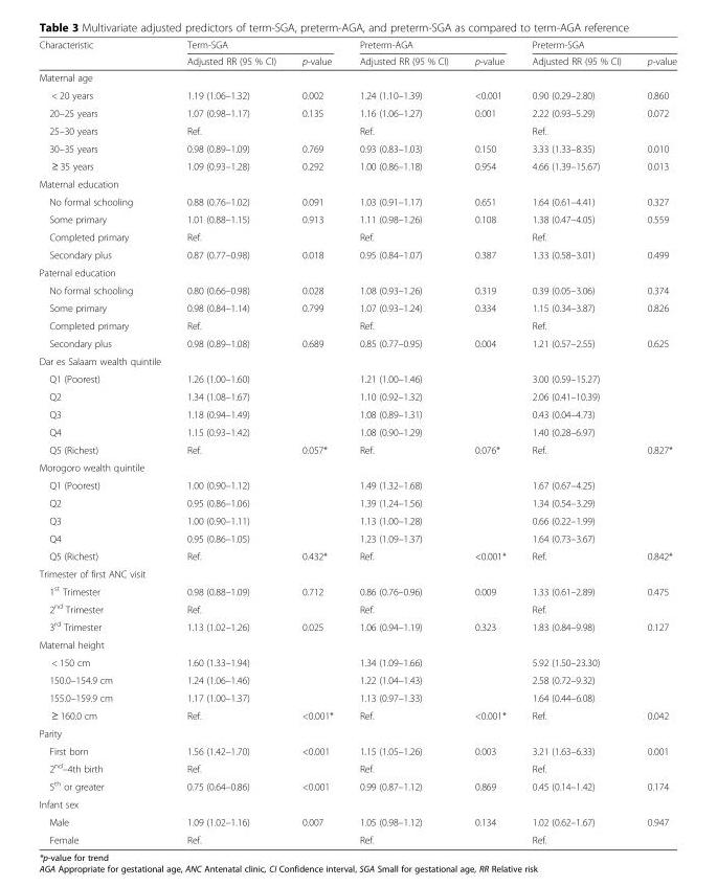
<table><thead><tr><td rowspan="2">Characteristic</td><td colspan="2">Term-SGA</td><td colspan="2">Preterm-AGA</td><td colspan="2">Preterm-SGA</td></tr><tr><td>Adjusted RR (95 % CI)</td><td>p-value</td><td>Adjusted RR (95 % CI)</td><td>p-value</td><td>Adjusted RR (95 % CI)</td><td>p-value</td></tr></thead><tbody><tr><td colspan="7">Maternal age</td></tr><tr><td>&lt; 20 years</td><td>1.19 (1.06–1.32)</td><td>0.002</td><td>1.24 (1.10–1.39)</td><td>&lt;0.001</td><td>0.90 (0.29–2.80)</td><td>0.860</td></tr><tr><td>20–25 years</td><td>1.07 (0.98–1.17)</td><td>0.135</td><td>1.16 (1.06–1.27)</td><td>0.001</td><td>2.22 (0.93–5.29)</td><td>0.072</td></tr><tr><td>25–30 years</td><td>Ref.</td><td></td><td>Ref.</td><td></td><td>Ref.</td><td></td></tr><tr><td>30–35 years</td><td>0.98 (0.89–1.09)</td><td>0.769</td><td>0.93 (0.83–1.03)</td><td>0.150</td><td>3.33 (1.33–8.35)</td><td>0.010</td></tr><tr><td>≥ 35 years</td><td>1.09 (0.93–1.28)</td><td>0.292</td><td>1.00 (0.86–1.18)</td><td>0.954</td><td>4.66 (1.39–15.67)</td><td>0.013</td></tr><tr><td colspan="7">Maternal education</td></tr><tr><td>No formal schooling</td><td>0.88 (0.76–1.02)</td><td>0.091</td><td>1.03 (0.91–1.17)</td><td>0.651</td><td>1.64 (0.61–4.41)</td><td>0.327</td></tr><tr><td>Some primary</td><td>1.01 (0.88–1.15)</td><td>0.913</td><td>1.11 (0.98–1.26)</td><td>0.108</td><td>1.38 (0.47–4.05)</td><td>0.559</td></tr><tr><td>Completed primary</td><td>Ref.</td><td></td><td>Ref.</td><td></td><td>Ref.</td><td></td></tr><tr><td>Secondary plus</td><td>0.87 (0.77–0.98)</td><td>0.018</td><td>0.95 (0.84–1.07)</td><td>0.387</td><td>1.33 (0.58–3.01)</td><td>0.499</td></tr><tr><td colspan="7">Paternal education</td></tr><tr><td>No formal schooling</td><td>0.80 (0.66–0.98)</td><td>0.028</td><td>1.08 (0.93–1.26)</td><td>0.319</td><td>0.39 (0.05–3.06)</td><td>0.374</td></tr><tr><td>Some primary</td><td>0.98 (0.84–1.14)</td><td>0.799</td><td>1.07 (0.93–1.24)</td><td>0.334</td><td>1.15 (0.34–3.87)</td><td>0.826</td></tr><tr><td>Completed primary</td><td>Ref.</td><td></td><td>Ref.</td><td></td><td>Ref.</td><td></td></tr><tr><td>Secondary plus</td><td>0.98 (0.89–1.08)</td><td>0.689</td><td>0.85 (0.77–0.95)</td><td>0.004</td><td>1.21 (0.57–2.55)</td><td>0.625</td></tr><tr><td colspan="7">Dar es Salaam wealth quintile</td></tr><tr><td>Q1 (Poorest)</td><td>1.26 (1.00–1.60)</td><td></td><td>1.21 (1.00–1.46)</td><td></td><td>3.00 (0.59–15.27)</td><td></td></tr><tr><td>Q2</td><td>1.34 (1.08–1.67)</td><td></td><td>1.10 (0.92–1.32)</td><td></td><td>2.06 (0.41–10.39)</td><td></td></tr><tr><td>Q3</td><td>1.18 (0.94–1.49)</td><td></td><td>1.08 (0.89–1.31)</td><td></td><td>0.43 (0.04–4.73)</td><td></td></tr><tr><td>Q4</td><td>1.15 (0.93–1.42)</td><td></td><td>1.08 (0.90–1.29)</td><td></td><td>1.40 (0.28–6.97)</td><td></td></tr><tr><td>Q5 (Richest)</td><td>Ref.</td><td>0.057*</td><td>Ref.</td><td>0.076*</td><td>Ref.</td><td>0.827*</td></tr><tr><td colspan="7">Morogoro wealth quintile</td></tr><tr><td>Q1 (Poorest)</td><td>1.00 (0.90–1.12)</td><td></td><td>1.49 (1.32–1.68)</td><td></td><td>1.67 (0.67–4.25)</td><td></td></tr><tr><td>Q2</td><td>0.95 (0.86–1.06)</td><td></td><td>1.39 (1.24–1.56)</td><td></td><td>1.34 (0.54–3.29)</td><td></td></tr><tr><td>Q3</td><td>1.00 (0.90–1.11)</td><td></td><td>1.13 (1.00–1.28)</td><td></td><td>0.66 (0.22–1.99)</td><td></td></tr><tr><td>Q4</td><td>0.95 (0.86–1.05)</td><td></td><td>1.23 (1.09–1.37)</td><td></td><td>1.64 (0.73–3.67)</td><td></td></tr><tr><td>Q5 (Richest)</td><td>Ref.</td><td>0.432*</td><td>Ref.</td><td>&lt;0.001*</td><td>Ref.</td><td>0.842*</td></tr><tr><td colspan="7">Trimester of first ANC visit</td></tr><tr><td>1<sup>st</sup> Trimester</td><td>0.98 (0.88–1.09)</td><td>0.712</td><td>0.86 (0.76–0.96)</td><td>0.009</td><td>1.33 (0.61–2.89)</td><td>0.475</td></tr><tr><td>2<sup>nd</sup> Trimester</td><td>Ref.</td><td></td><td>Ref.</td><td></td><td>Ref.</td><td></td></tr><tr><td>3<sup>rd</sup> Trimester</td><td>1.13 (1.02–1.26)</td><td>0.025</td><td>1.06 (0.94–1.19)</td><td>0.323</td><td>1.83 (0.84–9.98)</td><td>0.127</td></tr><tr><td colspan="7">Maternal height</td></tr><tr><td>&lt; 150 cm</td><td>1.60 (1.33–1.94)</td><td></td><td>1.34 (1.09–1.66)</td><td></td><td>5.92 (1.50–23.30)</td><td></td></tr><tr><td>150.0–154.9 cm</td><td>1.24 (1.06–1.46)</td><td></td><td>1.22 (1.04–1.43)</td><td></td><td>2.58 (0.72–9.32)</td><td></td></tr><tr><td>155.0–159.9 cm</td><td>1.17 (1.00–1.37)</td><td></td><td>1.13 (0.97–1.33)</td><td></td><td>1.64 (0.44–6.08)</td><td></td></tr><tr><td>≥ 160.0 cm</td><td>Ref.</td><td>&lt;0.001*</td><td>Ref.</td><td>&lt;0.001*</td><td>Ref.</td><td>0.042</td></tr><tr><td colspan="7">Parity</td></tr><tr><td>First born</td><td>1.56 (1.42–1.70)</td><td>&lt;0.001</td><td>1.15 (1.05–1.26)</td><td>0.003</td><td>3.21 (1.63–6.33)</td><td>0.001</td></tr><tr><td>2<sup>nd</sup>–4th birth</td><td>Ref.</td><td></td><td>Ref.</td><td></td><td>Ref.</td><td></td></tr><tr><td>5<sup>th</sup> or greater</td><td>0.75 (0.64–0.86)</td><td>&lt;0.001</td><td>0.99 (0.87–1.12)</td><td>0.869</td><td>0.45 (0.14–1.42)</td><td>0.174</td></tr><tr><td colspan="7">Infant sex</td></tr><tr><td>Male</td><td>1.09 (1.02–1.16)</td><td>0.007</td><td>1.05 (0.98–1.12)</td><td>0.134</td><td>1.02 (0.62–1.67)</td><td>0.947</td></tr><tr><td>Female</td><td>Ref.</td><td></td><td>Ref.</td><td></td><td>Ref.</td><td></td></tr></tbody></table>